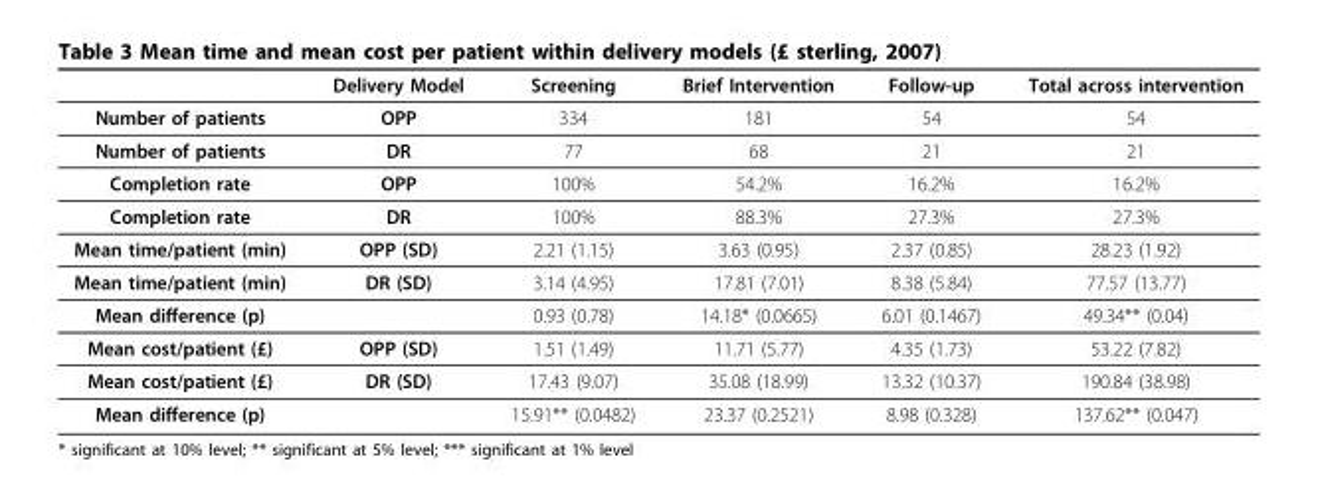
<table><thead><tr><td></td><td>Delivery Model</td><td>Screening</td><td>Brief Intervention</td><td>Follow-up</td><td>Total across intervention</td></tr></thead><tbody><tr><td>Number of patients</td><td>OPP</td><td>334</td><td>181</td><td>54</td><td>54</td></tr><tr><td>Number of patients</td><td>DR</td><td>77</td><td>68</td><td>21</td><td>21</td></tr><tr><td>Completion rate</td><td>OPP</td><td>100%</td><td>54.2%</td><td>16.2%</td><td>16.2%</td></tr><tr><td>Completion rate</td><td>DR</td><td>100%</td><td>88.3%</td><td>27.3%</td><td>27.3%</td></tr><tr><td>Mean time/patient (min)</td><td>OPP (SD)</td><td>2.21 (1.15)</td><td>3.63 (0.95)</td><td>2.37 (0.85)</td><td>28.23 (1.92)</td></tr><tr><td>Mean time/patient (min)</td><td>DR (SD)</td><td>3.14 (4.95)</td><td>17.81 (7.01)</td><td>8.38 (5.84)</td><td>77.57 (13.77)</td></tr><tr><td>Mean difference (p)</td><td></td><td>0.93 (0.78)</td><td>14.18* (0.0665)</td><td>6.01 (0.1467)</td><td>49.34** (0.04)</td></tr><tr><td>Mean cost/patient (£)</td><td>OPP (SD)</td><td>1.51 (1.49)</td><td>11.71 (5.77)</td><td>4.35 (1.73)</td><td>53.22 (7.82)</td></tr><tr><td>Mean cost/patient (£)</td><td>DR (SD)</td><td>17.43 (9.07)</td><td>35.08 (18.99)</td><td>13.32 (10.37)</td><td>190.84 (38.98)</td></tr><tr><td>Mean difference (p)</td><td></td><td>15.91** (0.0482)</td><td>23.37 (0.2521)</td><td>8.98 (0.328)</td><td>137.62** (0.047)</td></tr></tbody></table>